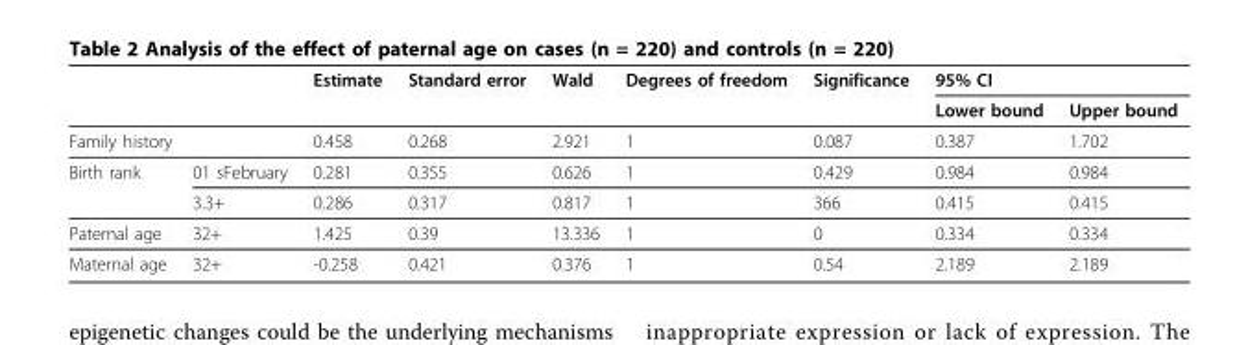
<table><thead><tr><td rowspan="2"></td><td rowspan="2"></td><td rowspan="2">Estimate</td><td rowspan="2">Standard error</td><td rowspan="2">Wald</td><td rowspan="2">Degrees of freedom</td><td rowspan="2">Significance</td><td colspan="2">95% CI</td></tr><tr><td>Lower bound</td><td>Upper bound</td></tr></thead><tbody><tr><td colspan="2">Family history</td><td>0.458</td><td>0.268</td><td>2.921</td><td>1</td><td>0.087</td><td>0.387</td><td>1.702</td></tr><tr><td rowspan="2">Birth rank</td><td>01 sFebruary</td><td>0.281</td><td>0.355</td><td>0.626</td><td>1</td><td>0.429</td><td>0.984</td><td>0.984</td></tr><tr><td>3.3+</td><td>0.286</td><td>0.317</td><td>0.817</td><td>1</td><td>366</td><td>0.415</td><td>0.415</td></tr><tr><td>Paternal age</td><td>32+</td><td>1.425</td><td>0.39</td><td>13.336</td><td>1</td><td>0</td><td>0.334</td><td>0.334</td></tr><tr><td>Maternal age</td><td>32+</td><td>-0.258</td><td>0.421</td><td>0.376</td><td>1</td><td>0.54</td><td>2.189</td><td>2.189</td></tr></tbody></table>